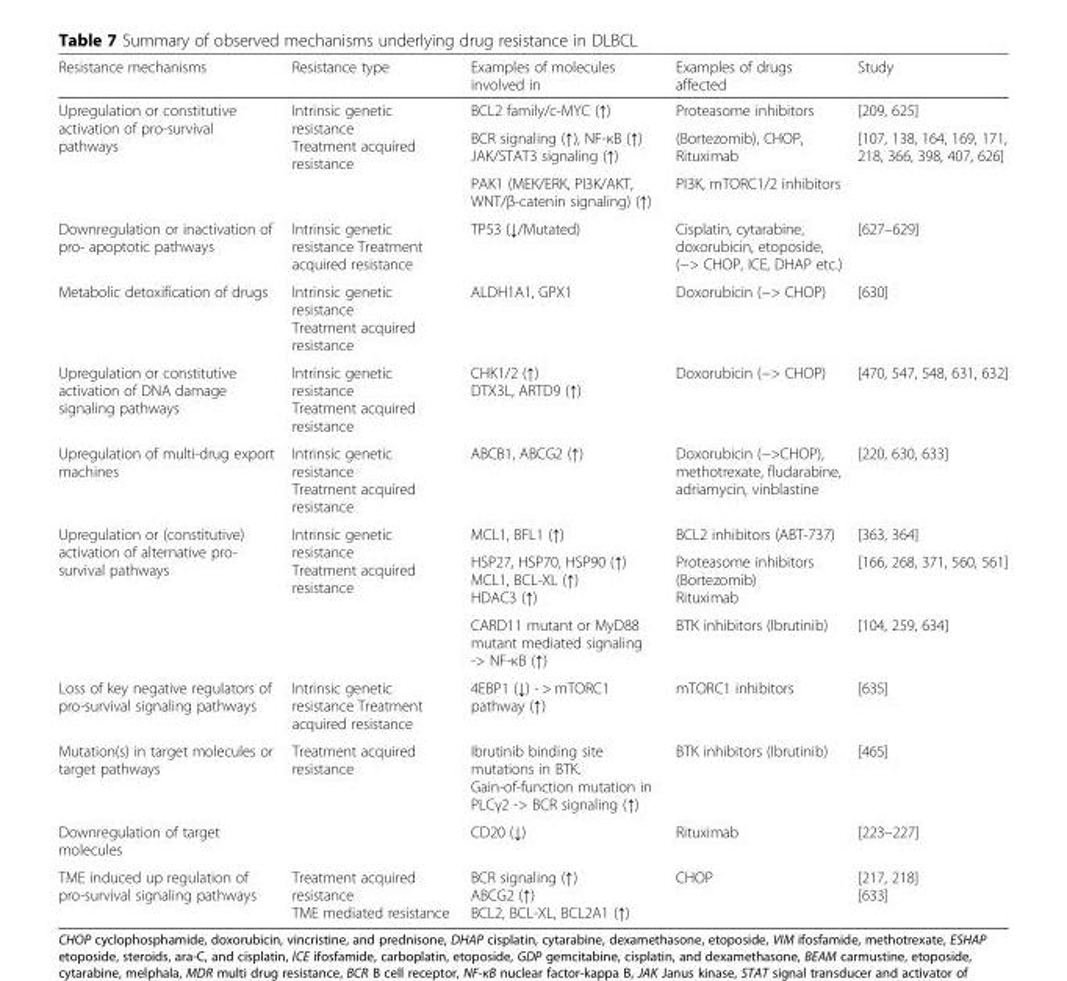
<table><thead><tr><td>Resistance mechanisms</td><td>Resistance type</td><td>Examples of molecules involved in</td><td>Examples of drugs affected</td><td>Study</td></tr></thead><tbody><tr><td rowspan="3">Upregulation or constitutive activation of pro-survival pathways</td><td rowspan="3">Intrinsic genetic resistance Treatment acquired resistance</td><td>BCL2 family/c-MYC (↑)</td><td>Proteasome inhibitors</td><td>[209, 625]</td></tr><tr><td>BCR signaling (↑), NF-κB (↑) JAK/STAT3 signaling (↑)</td><td>(Bortezomib), CHOP, Rituximab</td><td>[107, 138, 164, 169, 171, 218, 366, 398, 407, 626]</td></tr><tr><td>PAK1 (MEK/ERK, PI3K/AKT, WNT/β-catenin signaling) (↑)</td><td>PI3K, mTORC1/2 inhibitors</td><td></td></tr><tr><td>Downregulation or inactivation of pro- apoptotic pathways</td><td>Intrinsic genetic resistance Treatment acquired resistance</td><td>TP53 (↓/Mutated)</td><td>Cisplatin, cytarabine, doxorubicin, etoposide, (−&gt; CHOP, ICE, DHAP etc.)</td><td>[627–629]</td></tr><tr><td>Metabolic detoxification of drugs</td><td>Intrinsic genetic resistance Treatment acquired resistance</td><td>ALDH1A1, GPX1</td><td>Doxorubicin (−&gt; CHOP)</td><td>[630]</td></tr><tr><td>Upregulation or constitutive activation of DNA damage signaling pathways</td><td>Intrinsic genetic resistance Treatment acquired resistance</td><td>CHK1/2 (↑) DTX3L, ARTD9 (↑)</td><td>Doxorubicin (−&gt; CHOP)</td><td>[470, 547, 548, 631, 632]</td></tr><tr><td>Upregulation of multi-drug export machines</td><td>Intrinsic genetic resistance Treatment acquired resistance</td><td>ABCB1, ABCG2 (↑)</td><td>Doxorubicin (−&gt;CHOP), methotrexate, fludarabine, adriamycin, vinblastine</td><td>[220, 630, 633]</td></tr><tr><td rowspan="3">Upregulation or (constitutive) activation of alternative pro- survival pathways</td><td rowspan="3">Intrinsic genetic resistance Treatment acquired resistance</td><td>MCL1, BFL1 (↑)</td><td>BCL2 inhibitors (ABT-737)</td><td>[363, 364]</td></tr><tr><td>HSP27, HSP70, HSP90 (↑) MCL1, BCL-XL (↑) HDAC3 (↑)</td><td>Proteasome inhibitors (Bortezomib) Rituximab</td><td>[166, 268, 371, 560, 561]</td></tr><tr><td>CARD11 mutant or MyD88 mutant mediated signaling -&gt; NF-κB (↑)</td><td>BTK inhibitors (Ibrutinib)</td><td>[104, 259, 634]</td></tr><tr><td>Loss of key negative regulators of pro-survival signaling pathways</td><td>Intrinsic genetic resistance Treatment acquired resistance</td><td>4EBP1 (↓) - &gt; mTORC1 pathway (↑)</td><td>mTORC1 inhibitors</td><td>[635]</td></tr><tr><td>Mutation(s) in target molecules or target pathways</td><td>Treatment acquired resistance</td><td>Ibrutinib binding site mutations in BTK. Gain-of-function mutation in PLCγ2 -&gt; BCR signaling (↑)</td><td>BTK inhibitors (Ibrutinib)</td><td>[465]</td></tr><tr><td>Downregulation of target molecules</td><td></td><td>CD20 (↓)</td><td>Rituximab</td><td>[223–227]</td></tr><tr><td>TME induced up regulation of pro-survival signaling pathways</td><td>Treatment acquired resistance TME mediated resistance</td><td>BCR signaling (↑) ABCG2 (↑) BCL2, BCL-XL, BCL2A1 (↑)</td><td>CHOP</td><td>[217, 218] [633]</td></tr></tbody></table>